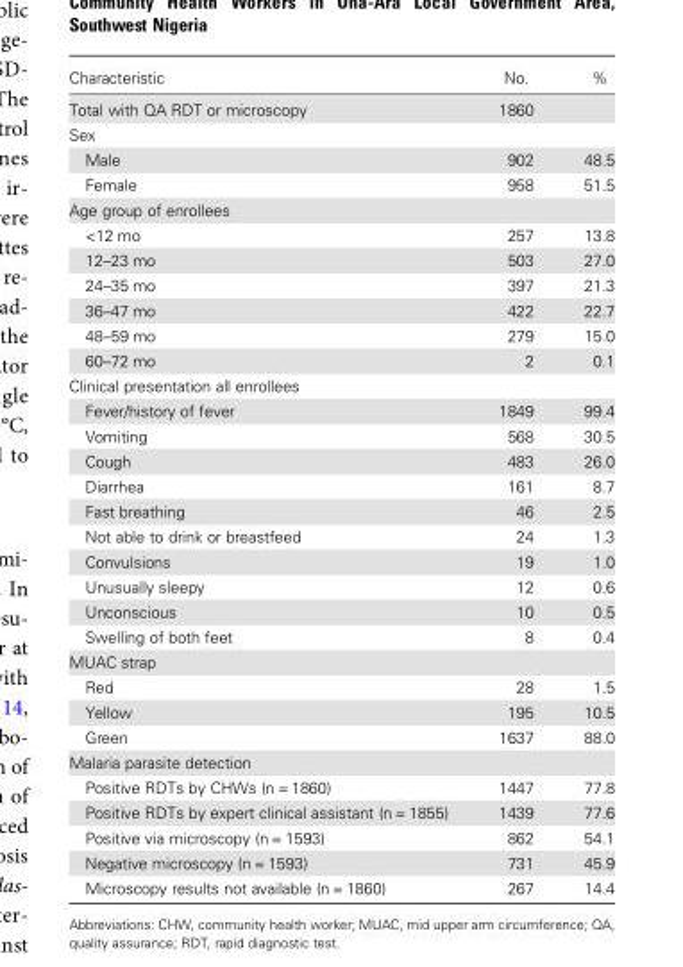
<table><thead><tr><td>Characteristic</td><td>No.</td><td>%</td></tr></thead><tbody><tr><td>Total with QA RDT or microscopy</td><td>1860</td><td></td></tr><tr><td colspan="3">Sex</td></tr><tr><td>Male</td><td>902</td><td>48.5</td></tr><tr><td>Female</td><td>958</td><td>51.5</td></tr><tr><td colspan="3">Age group of enrollees</td></tr><tr><td>&lt;12 mo</td><td>257</td><td>13.8</td></tr><tr><td>12–23 mo</td><td>503</td><td>27.0</td></tr><tr><td>24–35 mo</td><td>397</td><td>21.3</td></tr><tr><td>36–47 mo</td><td>422</td><td>22.7</td></tr><tr><td>48–59 mo</td><td>279</td><td>15.0</td></tr><tr><td>60–72 mo</td><td>2</td><td>0.1</td></tr><tr><td colspan="3">Clinical presentation all enrollees</td></tr><tr><td>Fever/history of fever</td><td>1849</td><td>99.4</td></tr><tr><td>Vomiting</td><td>568</td><td>30.5</td></tr><tr><td>Cough</td><td>483</td><td>26.0</td></tr><tr><td>Diarrhea</td><td>161</td><td>8.7</td></tr><tr><td>Fast breathing</td><td>46</td><td>2.5</td></tr><tr><td>Not able to drink or breastfeed</td><td>24</td><td>1.3</td></tr><tr><td>Convulsions</td><td>19</td><td>1.0</td></tr><tr><td>Unusually sleepy</td><td>12</td><td>0.6</td></tr><tr><td>Unconscious</td><td>10</td><td>0.5</td></tr><tr><td>Swelling of both feet</td><td>8</td><td>0.4</td></tr><tr><td colspan="3">MUAC strap</td></tr><tr><td>Red</td><td>28</td><td>1.5</td></tr><tr><td>Yellow</td><td>195</td><td>10.5</td></tr><tr><td>Green</td><td>1637</td><td>88.0</td></tr><tr><td colspan="3">Malaria parasite detection</td></tr><tr><td>Positive RDTs by CHWs (n = 1860)</td><td>1447</td><td>77.8</td></tr><tr><td>Positive RDTs by expert clinical assistant (n = 1855)</td><td>1439</td><td>77.6</td></tr><tr><td>Positive via microscopy (n = 1593)</td><td>862</td><td>54.1</td></tr><tr><td>Negative microscopy (n = 1593)</td><td>731</td><td>45.9</td></tr><tr><td>Microscopy results not available (n = 1860)</td><td>267</td><td>14.4</td></tr></tbody></table>